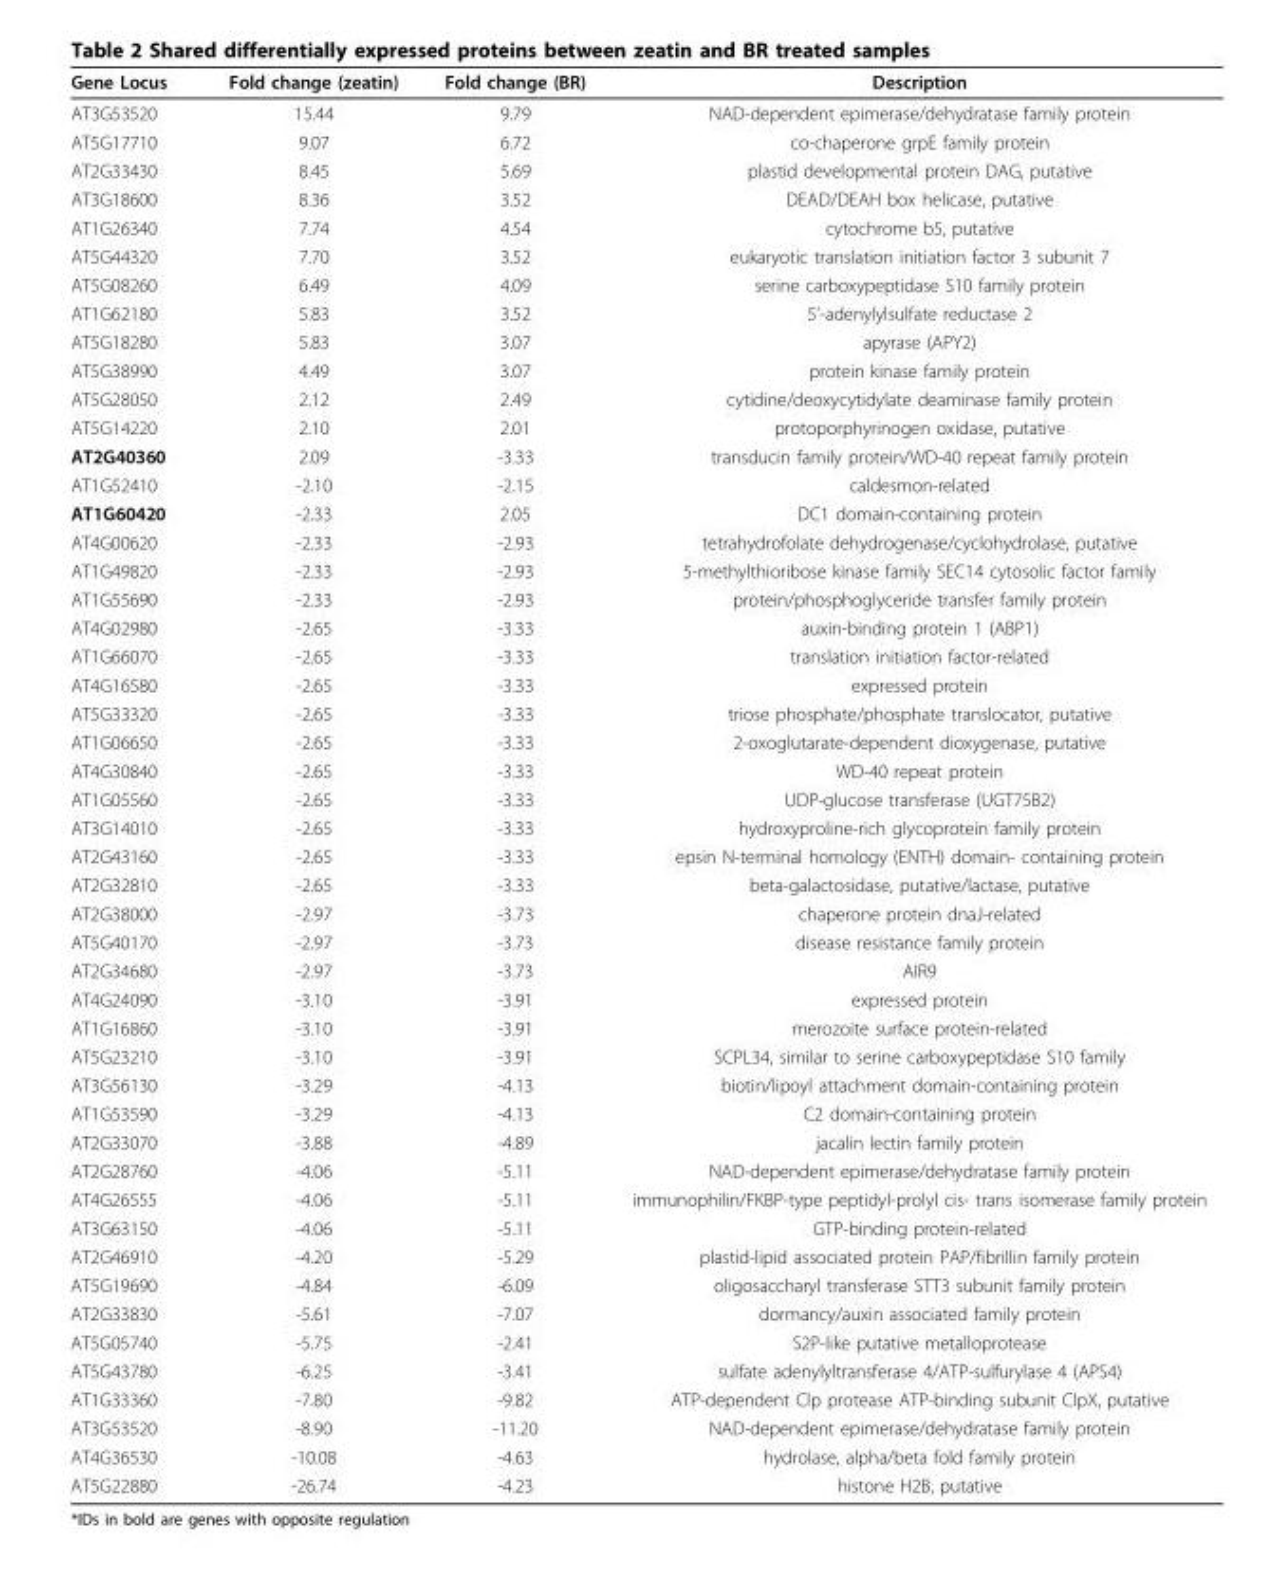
<table><thead><tr><td>Gene Locus</td><td>Fold change (zeatin)</td><td>Fold change (BR)</td><td>Description</td></tr></thead><tbody><tr><td>AT3G53520</td><td>15.44</td><td>9.79</td><td>NAD-dependent epimerase/dehydratase family protein</td></tr><tr><td>AT5G17710</td><td>9.07</td><td>6.72</td><td>co-chaperone grpE family protein</td></tr><tr><td>AT2G33430</td><td>8.45</td><td>5.69</td><td>plastid developmental protein DAG, putative</td></tr><tr><td>AT3G18600</td><td>8.36</td><td>3.52</td><td>DEAD/DEAH box helicase, putative</td></tr><tr><td>AT1G26340</td><td>7.74</td><td>4.54</td><td>cytochrome b5, putative</td></tr><tr><td>AT5G44320</td><td>7.70</td><td>3.52</td><td>eukaryotic translation initiation factor 3 subunit 7</td></tr><tr><td>AT5G08260</td><td>6.49</td><td>4.09</td><td>serine carboxypeptidase S10 family protein</td></tr><tr><td>AT1G62180</td><td>5.83</td><td>3.52</td><td>5’-adenylylsulfate reductase 2</td></tr><tr><td>AT5G18280</td><td>5.83</td><td>3.07</td><td>apyrase (APY2)</td></tr><tr><td>AT5G38990</td><td>4.49</td><td>3.07</td><td>protein kinase family protein</td></tr><tr><td>AT5G28050</td><td>2.12</td><td>2.49</td><td>cytidine/deoxycytidylate deaminase family protein</td></tr><tr><td>AT5G14220</td><td>2.10</td><td>2.01</td><td>protoporphyrinogen oxidase, putative</td></tr><tr><td>AT2G40360</td><td>2.09</td><td>-3.33</td><td>transducin family protein/WD-40 repeat family protein</td></tr><tr><td>AT1G52410</td><td>-2.10</td><td>-2.15</td><td>caldesmon-related</td></tr><tr><td>AT1G60420</td><td>-2.33</td><td>2.05</td><td>DC1 domain-containing protein</td></tr><tr><td>AT4G00620</td><td>-2.33</td><td>-2.93</td><td>tetrahydrofolate dehydrogenase/cyclohydrolase, putative</td></tr><tr><td>AT1G49820</td><td>-2.33</td><td>-2.93</td><td>5-methylthioribose kinase family SEC14 cytosolic factor family</td></tr><tr><td>AT1G55690</td><td>-2.33</td><td>-2.93</td><td>protein/phosphoglyceride transfer family protein</td></tr><tr><td>AT4G02980</td><td>-2.65</td><td>-3.33</td><td>auxin-binding protein 1 (ABP1)</td></tr><tr><td>AT1G66070</td><td>-2.65</td><td>-3.33</td><td>translation initiation factor-related</td></tr><tr><td>AT4G16580</td><td>-2.65</td><td>-3.33</td><td>expressed protein</td></tr><tr><td>AT5G33320</td><td>-2.65</td><td>-3.33</td><td>triose phosphate/phosphate translocator, putative</td></tr><tr><td>AT1G06650</td><td>-2.65</td><td>-3.33</td><td>2-oxoglutarate-dependent dioxygenase, putative</td></tr><tr><td>AT4G30840</td><td>-2.65</td><td>-3.33</td><td>WD-40 repeat protein</td></tr><tr><td>AT1G05560</td><td>-2.65</td><td>-3.33</td><td>UDP-glucose transferase (UGT75B2)</td></tr><tr><td>AT3G14010</td><td>-2.65</td><td>-3.33</td><td>hydroxyproline-rich glycoprotein family protein</td></tr><tr><td>AT2G43160</td><td>-2.65</td><td>-3.33</td><td>epsin N-terminal homology (ENTH) domain- containing protein</td></tr><tr><td>AT2G32810</td><td>-2.65</td><td>-3.33</td><td>beta-galactosidase, putative/lactase, putative</td></tr><tr><td>AT2G38000</td><td>-2.97</td><td>-3.73</td><td>chaperone protein dnaJ-related</td></tr><tr><td>AT5G40170</td><td>-2.97</td><td>-3.73</td><td>disease resistance family protein</td></tr><tr><td>AT2G34680</td><td>-2.97</td><td>-3.73</td><td>AIR9</td></tr><tr><td>AT4G24090</td><td>-3.10</td><td>-3.91</td><td>expressed protein</td></tr><tr><td>AT1G16860</td><td>-3.10</td><td>-3.91</td><td>merozoite surface protein-related</td></tr><tr><td>AT5G23210</td><td>-3.10</td><td>-3.91</td><td>SCPL34, similar to serine carboxypeptidase S10 family</td></tr><tr><td>AT3G56130</td><td>-3.29</td><td>-4.13</td><td>biotin/lipoyl attachment domain-containing protein</td></tr><tr><td>AT1G53590</td><td>-3.29</td><td>-4.13</td><td>C2 domain-containing protein</td></tr><tr><td>AT2G33070</td><td>-3.88</td><td>-4.89</td><td>jacalin lectin family protein</td></tr><tr><td>AT2G28760</td><td>-4.06</td><td>-5.11</td><td>NAD-dependent epimerase/dehydratase family protein</td></tr><tr><td>AT4G26555</td><td>-4.06</td><td>-5.11</td><td>immunophilin/FKBP-type peptidyl-prolyl cis- trans isomerase family protein</td></tr><tr><td>AT3G63150</td><td>-4.06</td><td>-5.11</td><td>GTP-binding protein-related</td></tr><tr><td>AT2G46910</td><td>-4.20</td><td>-5.29</td><td>plastid-lipid associated protein PAP/fibrillin family protein</td></tr><tr><td>AT5G19690</td><td>-4.84</td><td>-6.09</td><td>oligosaccharyl transferase STT3 subunit family protein</td></tr><tr><td>AT2G33830</td><td>-5.61</td><td>-7.07</td><td>dormancy/auxin associated family protein</td></tr><tr><td>AT5G05740</td><td>-5.75</td><td>-2.41</td><td>S2P-like putative metalloprotease</td></tr><tr><td>AT5G43780</td><td>-6.25</td><td>-3.41</td><td>sulfate adenylyltransferase 4/ATP-sulfurylase 4 (APS4)</td></tr><tr><td>AT1G33360</td><td>-7.80</td><td>-9.82</td><td>ATP-dependent Clp protease ATP-binding subunit ClpX, putative</td></tr><tr><td>AT3G53520</td><td>-8.90</td><td>-11.20</td><td>NAD-dependent epimerase/dehydratase family protein</td></tr><tr><td>AT4G36530</td><td>-10.08</td><td>-4.63</td><td>hydrolase, alpha/beta fold family protein</td></tr><tr><td>AT5G22880</td><td>-26.74</td><td>-4.23</td><td>histone H2B, putative</td></tr></tbody></table>